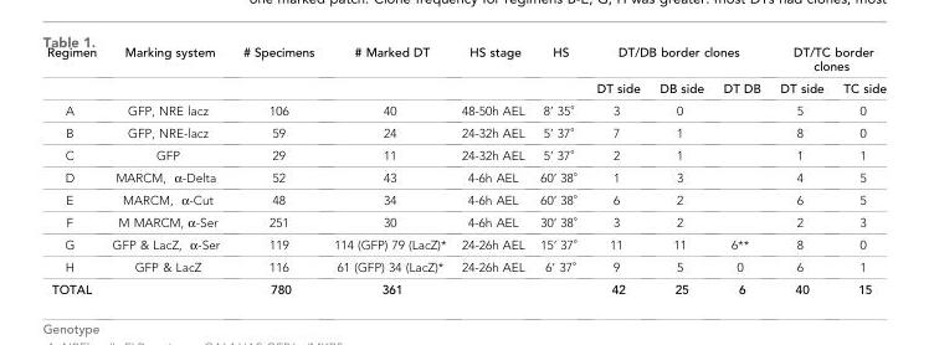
<table><tbody><tr><td rowspan="2">Regimen</td><td>Marking system</td><td># Specimens</td><td># Marked DT</td><td>HS stage</td><td>HS</td><td colspan="3">DT/DB border clones</td><td colspan="2">DT/TC border clones</td></tr><tr><td></td><td></td><td></td><td></td><td></td><td>DT side</td><td>DB side</td><td>DT DB</td><td>DT side</td><td>TC side</td></tr><tr><td>A</td><td>GFP, NRE lacz</td><td>106</td><td>40</td><td>48-50h AEL</td><td>8’ 35˚</td><td>3</td><td>0</td><td></td><td>5</td><td>0</td></tr><tr><td>B</td><td>GFP, NRE-lacz</td><td>59</td><td>24</td><td>24-32h AEL</td><td>5’ 37˚</td><td>7</td><td>1</td><td></td><td>8</td><td>0</td></tr><tr><td>C</td><td>GFP</td><td>29</td><td>11</td><td>24-32h AEL</td><td>5’ 37˚</td><td>2</td><td>1</td><td></td><td>1</td><td>1</td></tr><tr><td>D</td><td>MARCM, α-Delta</td><td>52</td><td>43</td><td>4-6h AEL</td><td>60’ 38˚</td><td>1</td><td>3</td><td></td><td>4</td><td>5</td></tr><tr><td>E</td><td>MARCM, α-Cut</td><td>48</td><td>34</td><td>4-6h AEL</td><td>60’ 38˚</td><td>6</td><td>2</td><td></td><td>6</td><td>5</td></tr><tr><td>F</td><td>M MARCM, α-Ser</td><td>251</td><td>30</td><td>4-6h AEL</td><td>30’ 38˚</td><td>3</td><td>2</td><td></td><td>2</td><td>3</td></tr><tr><td>G</td><td>GFP &amp; LacZ, α-Ser</td><td>119</td><td>114 (GFP) 79 (LacZ)*</td><td>24-26h AEL</td><td>15’ 37˚</td><td>11</td><td>11</td><td>6**</td><td>8</td><td>0</td></tr><tr><td>H</td><td>GFP &amp; LacZ</td><td>116</td><td>61 (GFP) 34 (LacZ)*</td><td>24-26h AEL</td><td>6’ 37˚</td><td>9</td><td>5</td><td>0</td><td>6</td><td>1</td></tr><tr><td>TOTAL</td><td></td><td>780</td><td>361</td><td></td><td></td><td>42</td><td>25</td><td>6</td><td>40</td><td>15</td></tr></tbody></table>